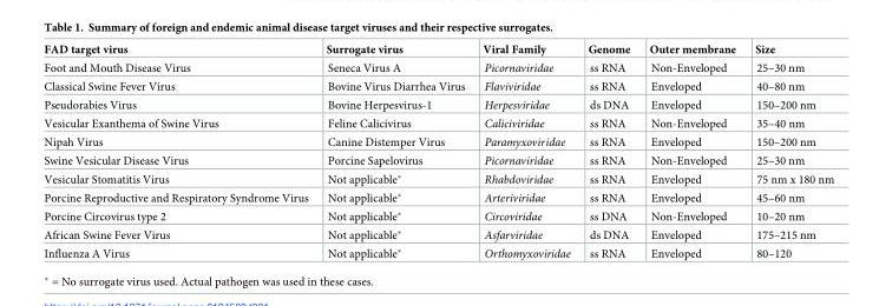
<table><thead><tr><td>FAD target virus</td><td>Surrogate virus</td><td>Viral Family</td><td>Genome</td><td>Outer membrane</td><td>Size</td></tr></thead><tbody><tr><td>Foot and Mouth Disease Virus</td><td>Seneca Virus A</td><td>Picornaviridae</td><td>ss RNA</td><td>Non-Enveloped</td><td>25–30 nm</td></tr><tr><td>Classical Swine Fever Virus</td><td>Bovine Virus Diarrhea Virus</td><td>Flaviviridae</td><td>ss RNA</td><td>Enveloped</td><td>40–80 nm</td></tr><tr><td>Pseudorabies Virus</td><td>Bovine Herpesvirus-1</td><td>Herpesviridae</td><td>ds DNA</td><td>Enveloped</td><td>150–200 nm</td></tr><tr><td>Vesicular Exanthema of Swine Virus</td><td>Feline Calicivirus</td><td>Caliciviridae</td><td>ss RNA</td><td>Non-Enveloped</td><td>35–40 nm</td></tr><tr><td>Nipah Virus</td><td>Canine Distemper Virus</td><td>Paramyxoviridae</td><td>ss RNA</td><td>Enveloped</td><td>150–200 nm</td></tr><tr><td>Swine Vesicular Disease Virus</td><td>Porcine Sapelovirus</td><td>Picornaviridae</td><td>ss RNA</td><td>Non-Enveloped</td><td>25–30 nm</td></tr><tr><td>Vesicular Stomatitis Virus</td><td>Not applicable*</td><td>Rhabdoviridae</td><td>ss RNA</td><td>Enveloped</td><td>75 nm x 180 nm</td></tr><tr><td>Porcine Reproductive and Respiratory Syndrome Virus</td><td>Not applicable*</td><td>Arteriviridae</td><td>ss RNA</td><td>Enveloped</td><td>45–60 nm</td></tr><tr><td>Porcine Circovirus type 2</td><td>Not applicable*</td><td>Circoviridae</td><td>ss DNA</td><td>Non-Enveloped</td><td>10–20 nm</td></tr><tr><td>African Swine Fever Virus</td><td>Not applicable*</td><td>Asfarviridae</td><td>ds DNA</td><td>Enveloped</td><td>175–215 nm</td></tr><tr><td>Influenza A Virus</td><td>Not applicable*</td><td>Orthomyxoviridae</td><td>ss RNA</td><td>Enveloped</td><td>80–120</td></tr></tbody></table>